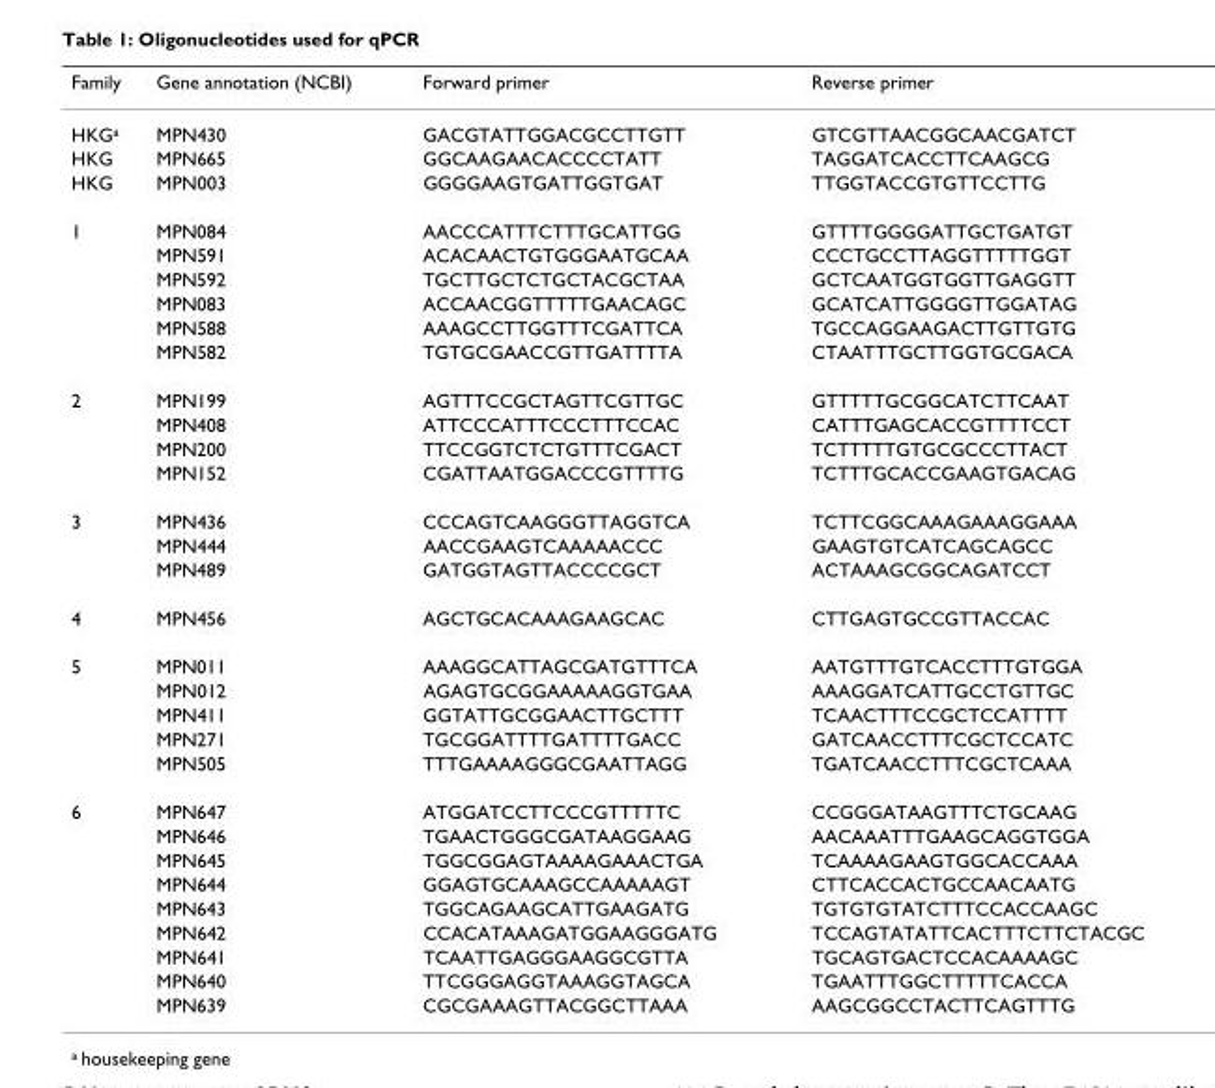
<table><thead><tr><td>Family</td><td>Gene annotation (NCBI)</td><td>Forward primer</td><td>Reverse primer</td></tr></thead><tbody><tr><td>HKG<sup>a</sup></td><td>MPN430</td><td>GACGTATTGGACGCCTTGTT</td><td>GTCGTTAACGGCAACGATCT</td></tr><tr><td>HKG</td><td>MPN665</td><td>GGCAAGAACACCCCTATT</td><td>TAGGATCACCTTCAAGCG</td></tr><tr><td>HKG</td><td>MPN003</td><td>GGGGAAGTGATTGGTGAT</td><td>TTGGTACCGTGTTCCTTG</td></tr><tr><td rowspan="6">1</td><td>MPN084</td><td>AACCCATTTCTTTGCATTGG</td><td>GTTTTGGGGATTGCTGATGT</td></tr><tr><td>MPN591</td><td>ACACAACTGTGGGAATGCAA</td><td>CCCTGCCTTAGGTTTTTGGT</td></tr><tr><td>MPN592</td><td>TGCTTGCTCTGCTACGCTAA</td><td>GCTCAATGGTGGTTGAGGTT</td></tr><tr><td>MPN083</td><td>ACCAACGGTTTTTGAACAGC</td><td>GCATCATTGGGGTTGGATAG</td></tr><tr><td>MPN588</td><td>AAAGCCTTGGTTTCGATTCA</td><td>TGCCAGGAAGACTTGTTGTG</td></tr><tr><td>MPN582</td><td>TGTGCGAACCGTTGATTTTA</td><td>CTAATTTGCTTGGTGCGACA</td></tr><tr><td rowspan="4">2</td><td>MPN199</td><td>AGTTTCCGCTAGTTCGTTGC</td><td>GTTTTTGCGGCATCTTCAAT</td></tr><tr><td>MPN408</td><td>ATTCCCATTTCCCTTTCCAC</td><td>CATTTGAGCACCGTTTTCCT</td></tr><tr><td>MPN200</td><td>TTCCGGTCTCTGTTTCGACT</td><td>TCTTTTTGTGCGCCCTTACT</td></tr><tr><td>MPN152</td><td>CGATTAATGGACCCGTTTTG</td><td>TCTTTGCACCGAAGTGACAG</td></tr><tr><td rowspan="3">3</td><td>MPN436</td><td>CCCAGTCAAGGGTTAGGTCA</td><td>TCTTCGGCAAAGAAAGGAAA</td></tr><tr><td>MPN444</td><td>AACCGAAGTCAAAAACCC</td><td>GAAGTGTCATCAGCAGCC</td></tr><tr><td>MPN489</td><td>GATGGTAGTTACCCCGCT</td><td>ACTAAAGCGGCAGATCCT</td></tr><tr><td>4</td><td>MPN456</td><td>AGCTGCACAAAGAAGCAC</td><td>CTTGAGTGCCGTTACCAC</td></tr><tr><td rowspan="5">5</td><td>MPN011</td><td>AAAGGCATTAGCGATGTTTCA</td><td>AATGTTTGTCACCTTTGTGGA</td></tr><tr><td>MPN012</td><td>AGAGTGCGGAAAAAGGTGAA</td><td>AAAGGATCATTGCCTGTTGC</td></tr><tr><td>MPN411</td><td>GGTATTGCGGAACTTGCTTT</td><td>TCAACTTTCCGCTCCATTTT</td></tr><tr><td>MPN271</td><td>TGCGGATTTTGATTTTGACC</td><td>GATCAACCTTTCGCTCCATC</td></tr><tr><td>MPN505</td><td>TTTGAAAAGGGCGAATTAGG</td><td>TGATCAACCTTTCGCTCAAA</td></tr><tr><td rowspan="9">6</td><td>MPN647</td><td>ATGGATCCTTCCCGTTTTTC</td><td>CCGGGATAAGTTTCTGCAAG</td></tr><tr><td>MPN646</td><td>TGAACTGGGCGATAAGGAAG</td><td>AACAAATTTGAAGCAGGTGGA</td></tr><tr><td>MPN645</td><td>TGGCGGAGTAAAAGAAACTGA</td><td>TCAAAAGAAGTGGCACCAAA</td></tr><tr><td>MPN644</td><td>GGAGTGCAAAGCCAAAAAGT</td><td>CTTCACCACTGCCAACAATG</td></tr><tr><td>MPN643</td><td>TGGCAGAAGCATTGAAGATG</td><td>TGTGTGTATCTTTCCACCAAGC</td></tr><tr><td>MPN642</td><td>CCACATAAAGATGGAAGGGATG</td><td>TCCAGTATATTCACTTTCTTCTACGC</td></tr><tr><td>MPN641</td><td>TCAATTGAGGGAAGGCGTTA</td><td>TGCAGTGACTCCACAAAAGC</td></tr><tr><td>MPN640</td><td>TTCGGGAGGTAAAGGTAGCA</td><td>TGAATTTGGCTTTTTCACCA</td></tr><tr><td>MPN639</td><td>CGCGAAAGTTACGGCTTAAA</td><td>AAGCGGCCTACTTCAGTTTG</td></tr></tbody></table>